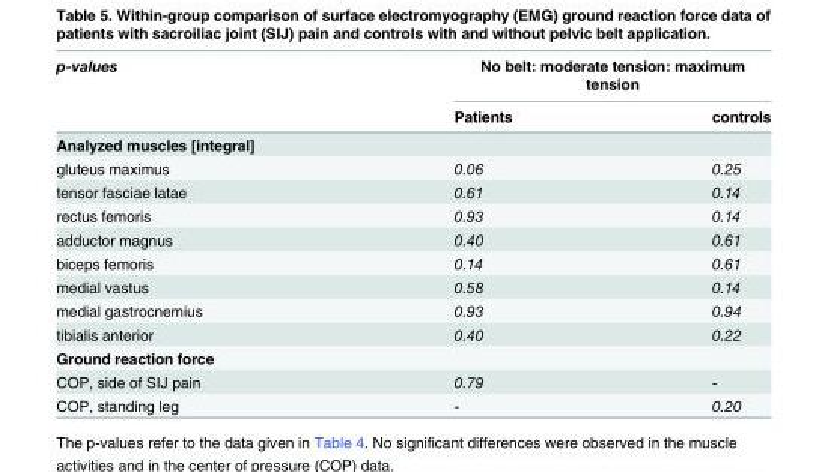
<table><thead><tr><td rowspan="2">p-values</td><td colspan="2">No belt: moderate tension: maximum tension</td></tr><tr><td>Patients</td><td>controls</td></tr></thead><tbody><tr><td colspan="3">Analyzed muscles [integral]</td></tr><tr><td>gluteus maximus</td><td>0.06</td><td>0.25</td></tr><tr><td>tensor fasciae latae</td><td>0.61</td><td>0.14</td></tr><tr><td>rectus femoris</td><td>0.93</td><td>0.14</td></tr><tr><td>adductor magnus</td><td>0.40</td><td>0.61</td></tr><tr><td>biceps femoris</td><td>0.14</td><td>0.61</td></tr><tr><td>medial vastus</td><td>0.58</td><td>0.14</td></tr><tr><td>medial gastrocnemius</td><td>0.93</td><td>0.94</td></tr><tr><td>tibialis anterior</td><td>0.40</td><td>0.22</td></tr><tr><td colspan="3">Ground reaction force</td></tr><tr><td>COP, side of SIJ pain</td><td>0.79</td><td>-</td></tr><tr><td>COP, standing leg</td><td>-</td><td>0.20</td></tr></tbody></table>